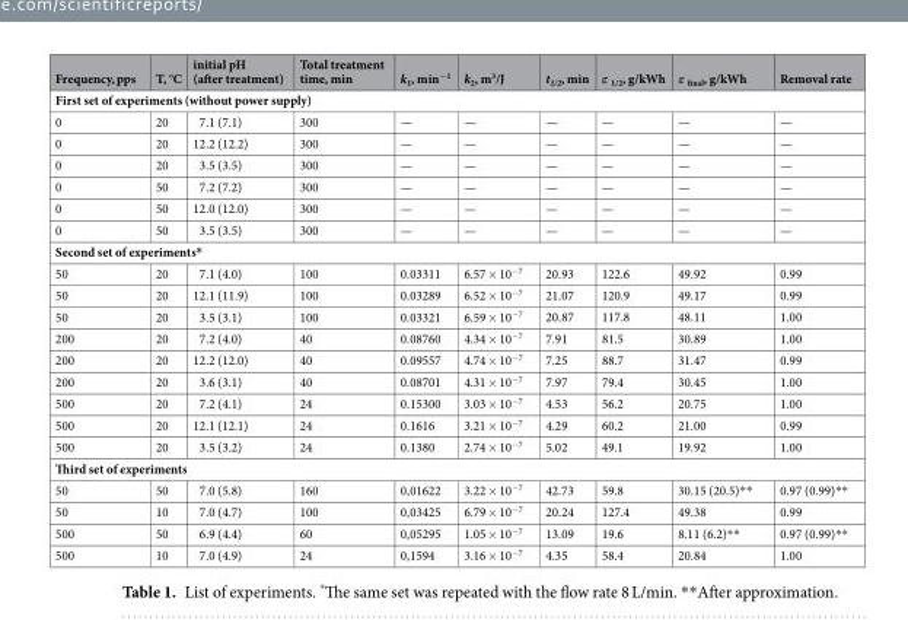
<table><thead><tr><td>Frequency, pps</td><td>T, °C</td><td>initial pH (after treatment)</td><td>Total treatment time, min</td><td>k<sub>1</sub>, min<sup>−1</sup></td><td>k<sub>2</sub>, m<sup>3</sup>/J</td><td>t<sub>1/2</sub>, min</td><td>ε <sub>1/2</sub>, g/kWh</td><td>ε <sub>final</sub>, g/kWh</td><td>Removal rate</td></tr></thead><tbody><tr><td colspan="10">First set of experiments (without power supply)</td></tr><tr><td>0</td><td>20</td><td>7.1 (7.1)</td><td>300</td><td>—</td><td>—</td><td>—</td><td>—</td><td>—</td><td>—</td></tr><tr><td>0</td><td>20</td><td>12.2 (12.2)</td><td>300</td><td>—</td><td>—</td><td>—</td><td>—</td><td>—</td><td>—</td></tr><tr><td>0</td><td>20</td><td>3.5 (3.5)</td><td>300</td><td>—</td><td>—</td><td>—</td><td>—</td><td>—</td><td>—</td></tr><tr><td>0</td><td>50</td><td>7.2 (7.2)</td><td>300</td><td>—</td><td>—</td><td>—</td><td>—</td><td>—</td><td>—</td></tr><tr><td>0</td><td>50</td><td>12.0 (12.0)</td><td>300</td><td>—</td><td>—</td><td>—</td><td>—</td><td>—</td><td>—</td></tr><tr><td>0</td><td>50</td><td>3.5 (3.5)</td><td>300</td><td>—</td><td>—</td><td>—</td><td>—</td><td>—</td><td>—</td></tr><tr><td colspan="10">Second set of experiments*</td></tr><tr><td>50</td><td>20</td><td>7.1 (4.0)</td><td>100</td><td>0.03311</td><td>6.57 × 10<sup>−7</sup></td><td>20.93</td><td>122.6</td><td>49.92</td><td>0.99</td></tr><tr><td>50</td><td>20</td><td>12.1 (11.9)</td><td>100</td><td>0.03289</td><td>6.52 × 10<sup>−7</sup></td><td>21.07</td><td>120.9</td><td>49.17</td><td>0.99</td></tr><tr><td>50</td><td>20</td><td>3.5 (3.1)</td><td>100</td><td>0.03321</td><td>6.59 × 10<sup>−7</sup></td><td>20.87</td><td>117.8</td><td>48.11</td><td>1.00</td></tr><tr><td>200</td><td>20</td><td>7.2 (4.0)</td><td>40</td><td>0.08760</td><td>4.34 × 10<sup>−7</sup></td><td>7.91</td><td>81.5</td><td>30.89</td><td>1.00</td></tr><tr><td>200</td><td>20</td><td>12.2 (12.0)</td><td>40</td><td>0.09557</td><td>4.74 × 10<sup>−7</sup></td><td>7.25</td><td>88.7</td><td>31.47</td><td>0.99</td></tr><tr><td>200</td><td>20</td><td>3.6 (3.1)</td><td>40</td><td>0.08701</td><td>4.31 × 10<sup>−7</sup></td><td>7.97</td><td>79.4</td><td>30.45</td><td>1.00</td></tr><tr><td>500</td><td>20</td><td>7.2 (4.1)</td><td>24</td><td>0.15300</td><td>3.03 × 10<sup>−7</sup></td><td>4.53</td><td>56.2</td><td>20.75</td><td>1.00</td></tr><tr><td>500</td><td>20</td><td>12.1 (12.1)</td><td>24</td><td>0.1616</td><td>3.21 × 10<sup>−7</sup></td><td>4.29</td><td>60.2</td><td>21.00</td><td>0.99</td></tr><tr><td>500</td><td>20</td><td>3.5 (3.2)</td><td>24</td><td>0.1380</td><td>2.74 × 10<sup>−7</sup></td><td>5.02</td><td>49.1</td><td>19.92</td><td>1.00</td></tr><tr><td colspan="10">Third set of experiments</td></tr><tr><td>50</td><td>50</td><td>7.0 (5.8)</td><td>160</td><td>0,01622</td><td>3.22 × 10<sup>−7</sup></td><td>42.73</td><td>59.8</td><td>30.15 (20.5)**</td><td>0.97 (0.99)**</td></tr><tr><td>50</td><td>10</td><td>7.0 (4.7)</td><td>100</td><td>0,03425</td><td>6.79 × 10<sup>−7</sup></td><td>20.24</td><td>127.4</td><td>49.38</td><td>0.99</td></tr><tr><td>500</td><td>50</td><td>6.9 (4.4)</td><td>60</td><td>0,05295</td><td>1.05 × 10<sup>−7</sup></td><td>13.09</td><td>19.6</td><td>8.11 (6.2)**</td><td>0.97 (0.99)**</td></tr><tr><td>500</td><td>10</td><td>7.0 (4.9)</td><td>24</td><td>0,1594</td><td>3.16 × 10<sup>−7</sup></td><td>4.35</td><td>58.4</td><td>20.84</td><td>1.00</td></tr></tbody></table>